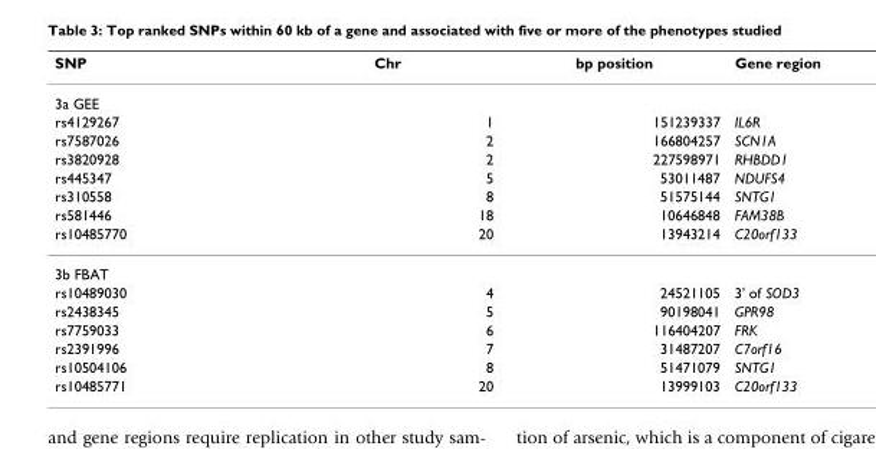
<table><thead><tr><td>SNP</td><td>Chr</td><td>bp position</td><td>Gene region</td></tr></thead><tbody><tr><td colspan="4">3a GEE</td></tr><tr><td>rs4129267</td><td>1</td><td>151239337</td><td>IL6R</td></tr><tr><td>rs7587026</td><td>2</td><td>166804257</td><td>SCN1A</td></tr><tr><td>rs3820928</td><td>2</td><td>227598971</td><td>RHBDD1</td></tr><tr><td>rs445347</td><td>5</td><td>53011487</td><td>NDUFS4</td></tr><tr><td>rs310558</td><td>8</td><td>51575144</td><td>SNTG1</td></tr><tr><td>rs581446</td><td>18</td><td>10646848</td><td>FAM38B</td></tr><tr><td>rs10485770</td><td>20</td><td>13943214</td><td>C20orf133</td></tr><tr><td colspan="4">3b FBAT</td></tr><tr><td>rs10489030</td><td>4</td><td>24521105</td><td>3&#x27; of SOD3</td></tr><tr><td>rs2438345</td><td>5</td><td>90198041</td><td>GPR98</td></tr><tr><td>rs7759033</td><td>6</td><td>116404207</td><td>FRK</td></tr><tr><td>rs2391996</td><td>7</td><td>31487207</td><td>C7orf16</td></tr><tr><td>rs10504106</td><td>8</td><td>51471079</td><td>SNTG1</td></tr><tr><td>rs10485771</td><td>20</td><td>13999103</td><td>C20orf133</td></tr></tbody></table>